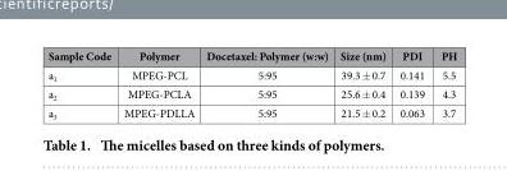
<table><thead><tr><td>Sample Code</td><td>Polymer</td><td>Docetaxel: Polymer (w:w)</td><td>Size (nm)</td><td>PDI</td><td>PH</td></tr></thead><tbody><tr><td>a<sub>1</sub></td><td>MPEG-PCL</td><td>5:95</td><td>39.3 ± 0.7</td><td>0.141</td><td>5.5</td></tr><tr><td>a<sub>2</sub></td><td>MPEG-PCLA</td><td>5:95</td><td>25.6 ± 0.4</td><td>0.139</td><td>4.3</td></tr><tr><td>a<sub>3</sub></td><td>MPEG-PDLLA</td><td>5:95</td><td>21.5 ± 0.2</td><td>0.063</td><td>3.7</td></tr></tbody></table>